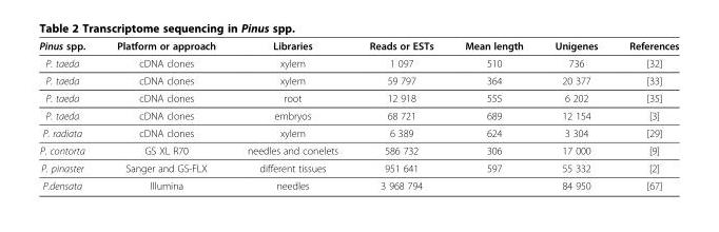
<table><thead><tr><td>Pinus spp.</td><td>Platform or approach</td><td>Libraries</td><td>Reads or ESTs</td><td>Mean length</td><td>Unigenes</td><td>References</td></tr></thead><tbody><tr><td>P. taeda</td><td>cDNA clones</td><td>xylem</td><td>1 097</td><td>510</td><td>736</td><td>[32]</td></tr><tr><td>P. taeda</td><td>cDNA clones</td><td>xylem</td><td>59 797</td><td>364</td><td>20 377</td><td>[33]</td></tr><tr><td>P. taeda</td><td>cDNA clones</td><td>root</td><td>12 918</td><td>555</td><td>6 202</td><td>[35]</td></tr><tr><td>P. taeda</td><td>cDNA clones</td><td>embryos</td><td>68 721</td><td>689</td><td>12 154</td><td>[3]</td></tr><tr><td>P. radiata</td><td>cDNA clones</td><td>xylem</td><td>6 389</td><td>624</td><td>3 304</td><td>[29]</td></tr><tr><td>P. contorta</td><td>GS XL R70</td><td>needles and conelets</td><td>586 732</td><td>306</td><td>17 000</td><td>[9]</td></tr><tr><td>P. pinaster</td><td>Sanger and GS-FLX</td><td>different tissues</td><td>951 641</td><td>597</td><td>55 332</td><td>[2]</td></tr><tr><td>P.densata</td><td>Illumina</td><td>needles</td><td>3 968 794</td><td></td><td>84 950</td><td>[67]</td></tr></tbody></table>